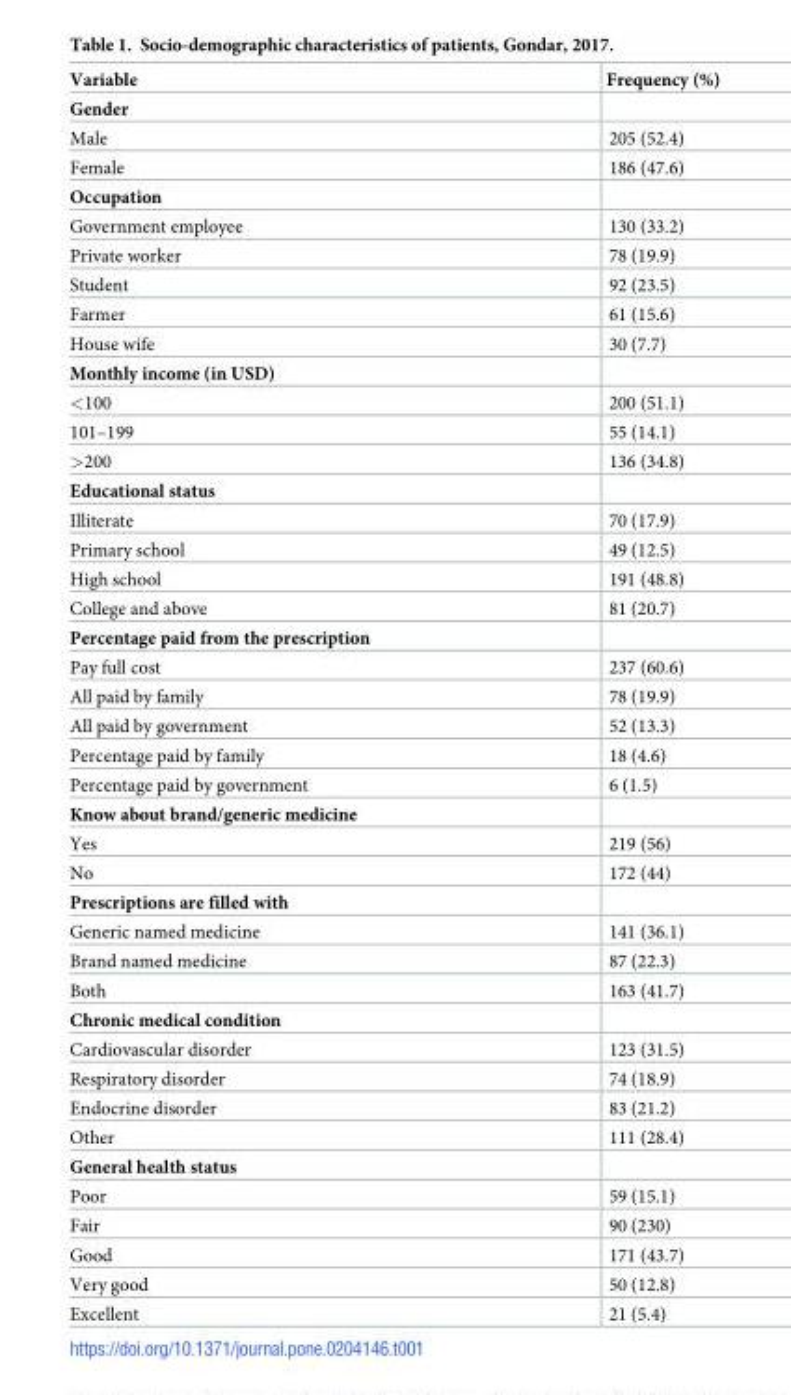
<table><thead><tr><td>Variable</td><td>Frequency (%)</td></tr></thead><tbody><tr><td colspan="2">Gender</td></tr><tr><td>Male</td><td>205 (52.4)</td></tr><tr><td>Female</td><td>186 (47.6)</td></tr><tr><td colspan="2">Occupation</td></tr><tr><td>Government employee</td><td>130 (33.2)</td></tr><tr><td>Private worker</td><td>78 (19.9)</td></tr><tr><td>Student</td><td>92 (23.5)</td></tr><tr><td>Farmer</td><td>61 (15.6)</td></tr><tr><td>House wife</td><td>30 (7.7)</td></tr><tr><td colspan="2">Monthly income (in USD)</td></tr><tr><td>&lt;100</td><td>200 (51.1)</td></tr><tr><td>101–199</td><td>55 (14.1)</td></tr><tr><td>&gt;200</td><td>136 (34.8)</td></tr><tr><td colspan="2">Educational status</td></tr><tr><td>Illiterate</td><td>70 (17.9)</td></tr><tr><td>Primary school</td><td>49 (12.5)</td></tr><tr><td>High school</td><td>191 (48.8)</td></tr><tr><td>College and above</td><td>81 (20.7)</td></tr><tr><td colspan="2">Percentage paid from the prescription</td></tr><tr><td>Pay full cost</td><td>237 (60.6)</td></tr><tr><td>All paid by family</td><td>78 (19.9)</td></tr><tr><td>All paid by government</td><td>52 (13.3)</td></tr><tr><td>Percentage paid by family</td><td>18 (4.6)</td></tr><tr><td>Percentage paid by government</td><td>6 (1.5)</td></tr><tr><td colspan="2">Know about brand/generic medicine</td></tr><tr><td>Yes</td><td>219 (56)</td></tr><tr><td>No</td><td>172 (44)</td></tr><tr><td colspan="2">Prescriptions are filled with</td></tr><tr><td>Generic named medicine</td><td>141 (36.1)</td></tr><tr><td>Brand named medicine</td><td>87 (22.3)</td></tr><tr><td>Both</td><td>163 (41.7)</td></tr><tr><td colspan="2">Chronic medical condition</td></tr><tr><td>Cardiovascular disorder</td><td>123 (31.5)</td></tr><tr><td>Respiratory disorder</td><td>74 (18.9)</td></tr><tr><td>Endocrine disorder</td><td>83 (21.2)</td></tr><tr><td>Other</td><td>111 (28.4)</td></tr><tr><td colspan="2">General health status</td></tr><tr><td>Poor</td><td>59 (15.1)</td></tr><tr><td>Fair</td><td>90 (230)</td></tr><tr><td>Good</td><td>171 (43.7)</td></tr><tr><td>Very good</td><td>50 (12.8)</td></tr><tr><td>Excellent</td><td>21 (5.4)</td></tr></tbody></table>